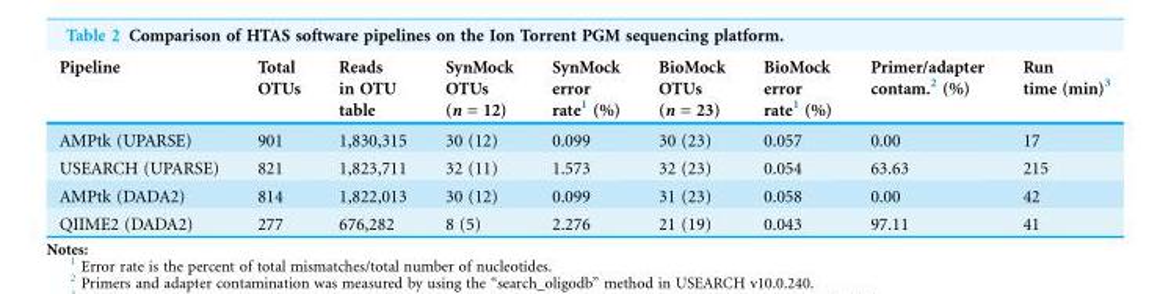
<table><thead><tr><td>Pipeline</td><td>Total OTUs</td><td>Reads in OTU table</td><td>SynMock OTUs (n = 12)</td><td>SynMock error rate<sup>1</sup> (%)</td><td>BioMock OTUs (n = 23)</td><td>BioMock error rate<sup>1</sup> (%)</td><td>Primer/adapter contam.<sup>2</sup> (%)</td><td>Run time (min)<sup>3</sup></td></tr></thead><tbody><tr><td>AMPtk (UPARSE)</td><td>901</td><td>1,830,315</td><td>30 (12)</td><td>0.099</td><td>30 (23)</td><td>0.057</td><td>0.00</td><td>17</td></tr><tr><td>USEARCH (UPARSE)</td><td>821</td><td>1,823,711</td><td>32 (11)</td><td>1.573</td><td>32 (23)</td><td>0.054</td><td>63.63</td><td>215</td></tr><tr><td>AMPtk (DADA2)</td><td>814</td><td>1,822,013</td><td>30 (12)</td><td>0.099</td><td>31 (23)</td><td>0.058</td><td>0.00</td><td>42</td></tr><tr><td>QIIME2 (DADA2)</td><td>277</td><td>676,282</td><td>8 (5)</td><td>2.276</td><td>21 (19)</td><td>0.043</td><td>97.11</td><td>41</td></tr></tbody></table>